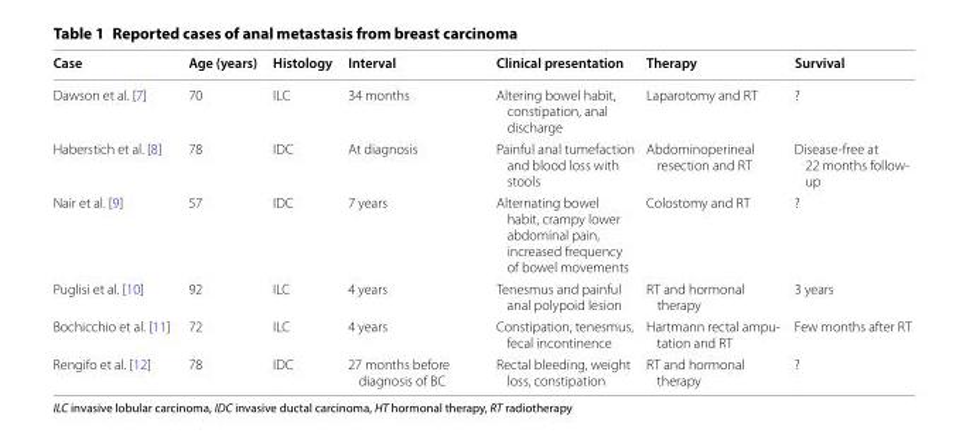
<table><thead><tr><td>Case</td><td>Age (years)</td><td>Histology</td><td>Interval</td><td>Clinical presentation</td><td>Therapy</td><td>Survival</td></tr></thead><tbody><tr><td>Dawson et al. [7]</td><td>70</td><td>ILC</td><td>34 months</td><td>Altering bowel habit, constipation, anal discharge</td><td>Laparotomy and RT</td><td>?</td></tr><tr><td>Haberstich et al. [8]</td><td>78</td><td>IDC</td><td>At diagnosis</td><td>Painful anal tumefaction and blood loss with stools</td><td>Abdominoperineal resection and RT</td><td>Disease-free at 22 months follow- up</td></tr><tr><td>Nair et al. [9]</td><td>57</td><td>IDC</td><td>7 years</td><td>Alternating bowel habit, crampy lower abdominal pain, increased frequency of bowel movements</td><td>Colostomy and RT</td><td>?</td></tr><tr><td>Puglisi et al. [10]</td><td>92</td><td>ILC</td><td>4 years</td><td>Tenesmus and painful anal polypoid lesion</td><td>RT and hormonal therapy</td><td>3 years</td></tr><tr><td>Bochicchio et al. [11]</td><td>72</td><td>ILC</td><td>4 years</td><td>Constipation, tenesmus, fecal incontinence</td><td>Hartmann rectal ampu- tation and RT</td><td>Few months after RT</td></tr><tr><td>Rengifo et al. [12]</td><td>78</td><td>IDC</td><td>27 months before diagnosis of BC</td><td>Rectal bleeding, weight loss, constipation</td><td>RT and hormonal therapy</td><td>?</td></tr></tbody></table>